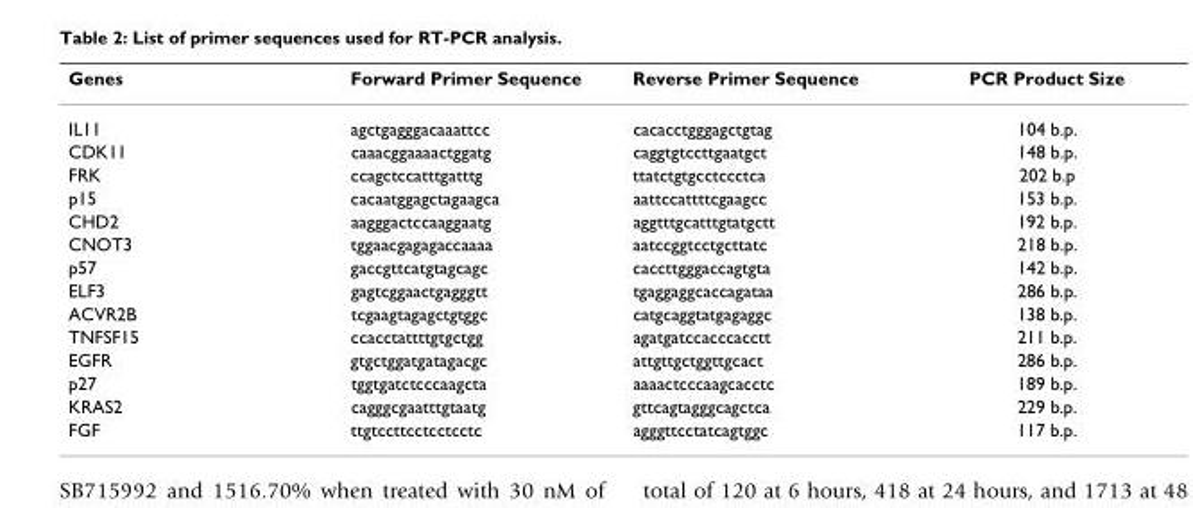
<table><thead><tr><td>Genes</td><td>Forward Primer Sequence</td><td>Reverse Primer Sequence</td><td>PCR Product Size</td></tr></thead><tbody><tr><td>IL11</td><td>agctgagggacaaattcc</td><td>cacacctgggagctgtag</td><td>104 b.p.</td></tr><tr><td>CDK11</td><td>caaacggaaaactggatg</td><td>caggtgtccttgaatgct</td><td>148 b.p.</td></tr><tr><td>FRK</td><td>ccagctccatttgatttg</td><td>ttatctgtgcctccctca</td><td>202 b.p</td></tr><tr><td>p15</td><td>cacaatggagctagaagca</td><td>aattccattttcgaagcc</td><td>153 b.p.</td></tr><tr><td>CHD2</td><td>aagggactccaaggaatg</td><td>aggtttgcatttgtatgctt</td><td>192 b.p.</td></tr><tr><td>CNOT3</td><td>tggaacgagagaccaaaa</td><td>aatccggtcctgcttatc</td><td>218 b.p.</td></tr><tr><td>p57</td><td>gaccgttcatgtagcagc</td><td>caccttgggaccagtgta</td><td>142 b.p.</td></tr><tr><td>ELF3</td><td>gagtcggaactgagggtt</td><td>tgaggaggcaccagataa</td><td>286 b.p.</td></tr><tr><td>ACVR2B</td><td>tcgaagtagagctgtggc</td><td>catgcaggtatgagaggc</td><td>138 b.p.</td></tr><tr><td>TNFSF15</td><td>ccacctattttgtgctgg</td><td>agatgatccacccacctt</td><td>211 b.p.</td></tr><tr><td>EGFR</td><td>gtgctggatgatagacgc</td><td>attgttgctggttgcact</td><td>286 b.p.</td></tr><tr><td>p27</td><td>tggtgatctcccaagcta</td><td>aaaactcccaagcacctc</td><td>189 b.p.</td></tr><tr><td>KRAS2</td><td>cagggcgaatttgtaatg</td><td>gttcagtagggcagctca</td><td>229 b.p.</td></tr><tr><td>FGF</td><td>ttgtccttcctcctcctc</td><td>agggttcctatcagtggc</td><td>117 b.p.</td></tr></tbody></table>